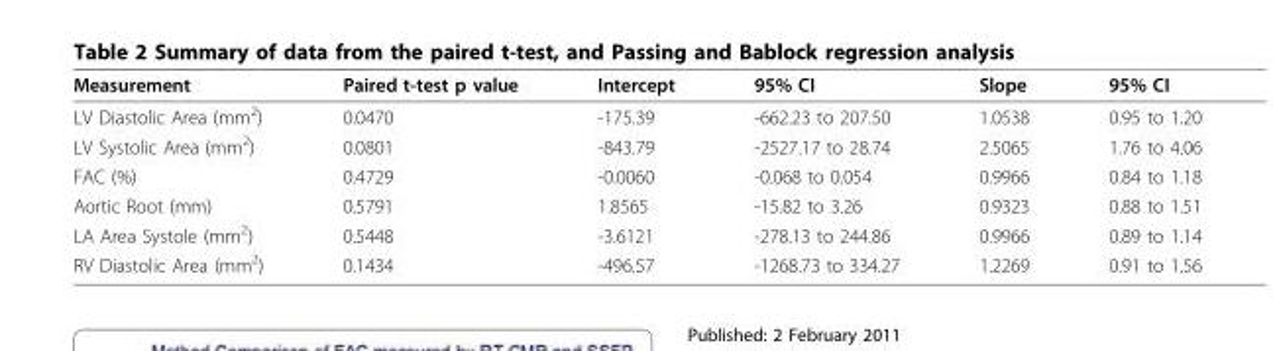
<table><thead><tr><td>Measurement</td><td>Paired t-test p value</td><td>Intercept</td><td>95% CI</td><td>Slope</td><td>95% CI</td></tr></thead><tbody><tr><td>LV Diastolic Area (mm<sup>2</sup>)</td><td>0.0470</td><td>-175.39</td><td>-662.23 to 207.50</td><td>1.0538</td><td>0.95 to 1.20</td></tr><tr><td>LV Systolic Area (mm<sup>2</sup>)</td><td>0.0801</td><td>-843.79</td><td>-2527.17 to 28.74</td><td>2.5065</td><td>1.76 to 4.06</td></tr><tr><td>FAC (%)</td><td>0.4729</td><td>-0.0060</td><td>-0.068 to 0.054</td><td>0.9966</td><td>0.84 to 1.18</td></tr><tr><td>Aortic Root (mm)</td><td>0.5791</td><td>1.8565</td><td>-15.82 to 3.26</td><td>0.9323</td><td>0.88 to 1.51</td></tr><tr><td>LA Area Systole (mm<sup>2</sup>)</td><td>0.5448</td><td>-3.6121</td><td>-278.13 to 244.86</td><td>0.9966</td><td>0.89 to 1.14</td></tr><tr><td>RV Diastolic Area (mm<sup>2</sup>)</td><td>0.1434</td><td>-496.57</td><td>-1268.73 to 334.27</td><td>1.2269</td><td>0.91 to 1.56</td></tr></tbody></table>